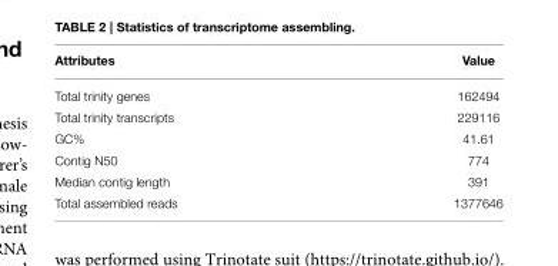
<table><thead><tr><td>Attributes</td><td>Value</td></tr></thead><tbody><tr><td>Total trinity genes</td><td>162494</td></tr><tr><td>Total trinity transcripts</td><td>229116</td></tr><tr><td>GC%</td><td>41.61</td></tr><tr><td>Contig N50</td><td>774</td></tr><tr><td>Median contig length</td><td>391</td></tr><tr><td>Total assembled reads</td><td>1377646</td></tr></tbody></table>